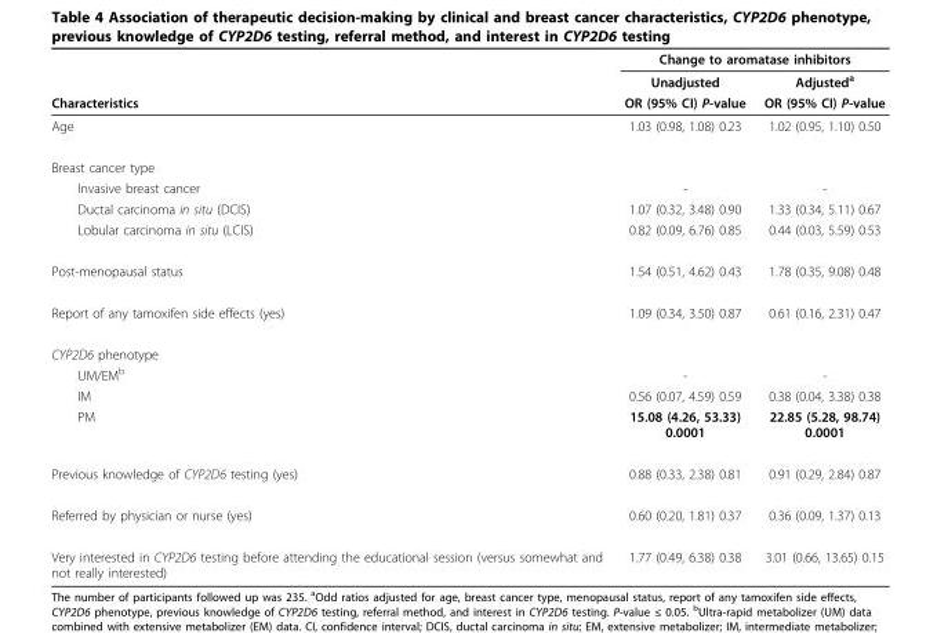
<table><thead><tr><td rowspan="3">Characteristics</td><td colspan="2">Change to aromatase inhibitors</td></tr><tr><td rowspan="2">Unadjusted OR (95% CI) P-value</td><td rowspan="2">Adjusted<sup>a</sup> OR (95% CI) P-value</td></tr><tr></tr></thead><tbody><tr><td>Age</td><td>1.03 (0.98, 1.08) 0.23</td><td>1.02 (0.95, 1.10) 0.50</td></tr><tr><td colspan="3">Breast cancer type</td></tr><tr><td>Invasive breast cancer</td><td>-</td><td>-</td></tr><tr><td>Ductal carcinoma in situ (DCIS)</td><td>1.07 (0.32, 3.48) 0.90</td><td>1.33 (0.34, 5.11) 0.67</td></tr><tr><td>Lobular carcinoma in situ (LCIS)</td><td>0.82 (0.09, 6.76) 0.85</td><td>0.44 (0.03, 5.59) 0.53</td></tr><tr><td>Post-menopausal status</td><td>1.54 (0.51, 4.62) 0.43</td><td>1.78 (0.35, 9.08) 0.48</td></tr><tr><td>Report of any tamoxifen side effects (yes)</td><td>1.09 (0.34, 3.50) 0.87</td><td>0.61 (0.16, 2.31) 0.47</td></tr><tr><td colspan="3">CYP2D6 phenotype</td></tr><tr><td>UM/EM<sup>b</sup></td><td>-</td><td>-</td></tr><tr><td>IM</td><td>0.56 (0.07, 4.59) 0.59</td><td>0.38 (0.04, 3.38) 0.38</td></tr><tr><td>PM</td><td>15.08 (4.26, 53.33) 0.0001</td><td>22.85 (5.28, 98.74) 0.0001</td></tr><tr><td>Previous knowledge of CYP2D6 testing (yes)</td><td>0.88 (0.33, 2.38) 0.81</td><td>0.91 (0.29, 2.84) 0.87</td></tr><tr><td>Referred by physician or nurse (yes)</td><td>0.60 (0.20, 1.81) 0.37</td><td>0.36 (0.09, 1.37) 0.13</td></tr><tr><td>Very interested in CYP2D6 testing before attending the educational session (versus somewhat and not really interested)</td><td>1.77 (0.49, 6.38) 0.38</td><td>3.01 (0.66, 13.65) 0.15</td></tr></tbody></table>